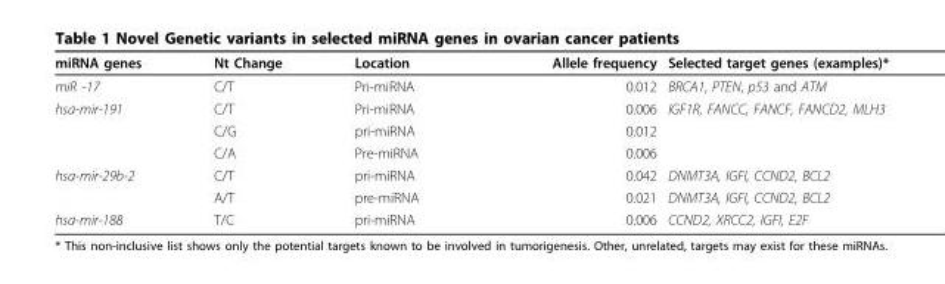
<table><thead><tr><td>miRNA genes</td><td>Nt Change</td><td>Location</td><td>Allele frequency</td><td>Selected target genes (examples)*</td></tr></thead><tbody><tr><td>miR -17</td><td>C/T</td><td>Pri-miRNA</td><td>0.012</td><td>BRCA1, PTEN, p53 and ATM</td></tr><tr><td rowspan="3">hsa-mir-191</td><td>C/T</td><td>Pri-miRNA</td><td>0.006</td><td>IGF1R, FANCC, FANCF, FANCD2, MLH3</td></tr><tr><td>C/G</td><td>pri-miRNA</td><td>0.012</td><td></td></tr><tr><td>C/A</td><td>Pre-miRNA</td><td>0.006</td><td></td></tr><tr><td rowspan="2">hsa-mir-29b-2</td><td>C/T</td><td>pri-miRNA</td><td>0.042</td><td>DNMT3A, IGFI, CCND2, BCL2</td></tr><tr><td>A/T</td><td>pre-miRNA</td><td>0.021</td><td>DNMT3A, IGFI, CCND2, BCL2</td></tr><tr><td>hsa-mir-188</td><td>T/C</td><td>pri-miRNA</td><td>0.006</td><td>CCND2, XRCC2, IGFI, E2F</td></tr></tbody></table>